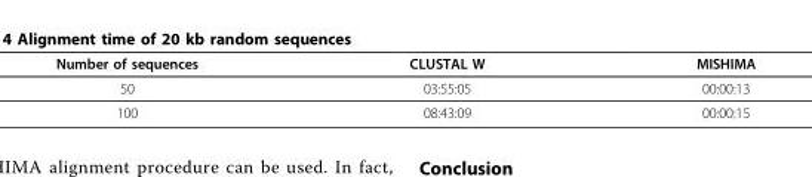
<table><thead><tr><td>Number of sequences</td><td>CLUSTAL W</td><td>MISHIMA</td></tr></thead><tbody><tr><td>50</td><td>03:55:05</td><td>00:00:13</td></tr><tr><td>100</td><td>08:43:09</td><td>00:00:15</td></tr></tbody></table>